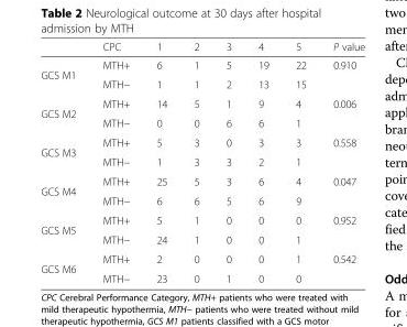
<table><thead><tr><td></td><td>CPC</td><td>1</td><td>2</td><td>3</td><td>4</td><td>5</td><td>P value</td></tr></thead><tbody><tr><td rowspan="2">GCS M1</td><td>MTH+</td><td>6</td><td>1</td><td>5</td><td>19</td><td>22</td><td rowspan="2">0.910</td></tr><tr><td>MTH−</td><td>1</td><td>1</td><td>2</td><td>13</td><td>15</td></tr><tr><td rowspan="2">GCS M2</td><td>MTH+</td><td>14</td><td>5</td><td>1</td><td>9</td><td>4</td><td rowspan="2">0.006</td></tr><tr><td>MTH−</td><td>0</td><td>0</td><td>6</td><td>6</td><td>1</td></tr><tr><td rowspan="2">GCS M3</td><td>MTH+</td><td>5</td><td>3</td><td>0</td><td>3</td><td>3</td><td rowspan="2">0.558</td></tr><tr><td>MTH−</td><td>1</td><td>3</td><td>3</td><td>2</td><td>1</td></tr><tr><td rowspan="2">GCS M4</td><td>MTH+</td><td>25</td><td>5</td><td>3</td><td>6</td><td>4</td><td rowspan="2">0.047</td></tr><tr><td>MTH−</td><td>6</td><td>6</td><td>5</td><td>6</td><td>9</td></tr><tr><td rowspan="2">GCS M5</td><td>MTH+</td><td>5</td><td>1</td><td>0</td><td>0</td><td>0</td><td rowspan="2">0.952</td></tr><tr><td>MTH−</td><td>24</td><td>1</td><td>0</td><td>0</td><td>1</td></tr><tr><td rowspan="2">GCS M6</td><td>MTH+</td><td>2</td><td>0</td><td>0</td><td>0</td><td>1</td><td rowspan="2">0.542</td></tr><tr><td>MTH−</td><td>23</td><td>0</td><td>1</td><td>0</td><td>0</td></tr></tbody></table>